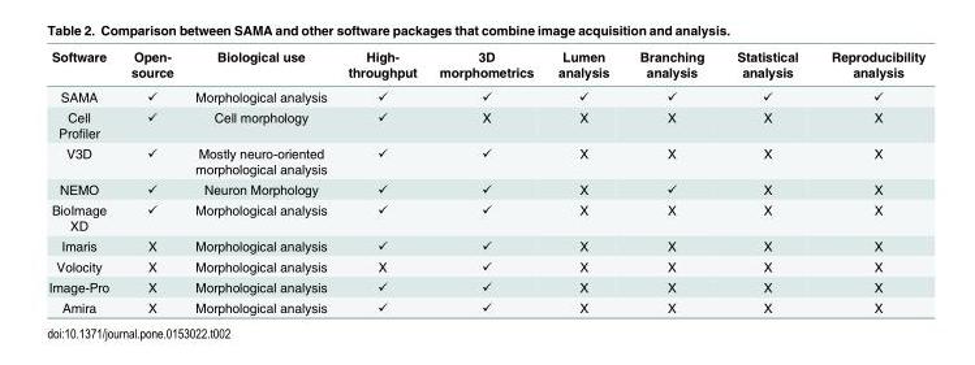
<table><thead><tr><td>Software</td><td>Open- source</td><td>Biological use</td><td>High- throughput</td><td>3D morphometrics</td><td>Lumen analysis</td><td>Branching analysis</td><td>Statistical analysis</td><td>Reproducibility analysis</td></tr></thead><tbody><tr><td>SAMA</td><td>✓</td><td>Morphological analysis</td><td>✓</td><td>✓</td><td>✓</td><td>✓</td><td>✓</td><td>✓</td></tr><tr><td>Cell Profiler</td><td>✓</td><td>Cell morphology</td><td>✓</td><td>X</td><td>X</td><td>X</td><td>X</td><td>X</td></tr><tr><td>V3D</td><td>✓</td><td>Mostly neuro-oriented morphological analysis</td><td>✓</td><td>✓</td><td>X</td><td>X</td><td>X</td><td>X</td></tr><tr><td>NEMO</td><td>✓</td><td>Neuron Morphology</td><td>✓</td><td>✓</td><td>X</td><td>✓</td><td>X</td><td>X</td></tr><tr><td>BioImage XD</td><td>✓</td><td>Morphological analysis</td><td>✓</td><td>✓</td><td>X</td><td>X</td><td>X</td><td>X</td></tr><tr><td>Imaris</td><td>X</td><td>Morphological analysis</td><td>✓</td><td>✓</td><td>X</td><td>X</td><td>X</td><td>X</td></tr><tr><td>Volocity</td><td>X</td><td>Morphological analysis</td><td>X</td><td>✓</td><td>X</td><td>X</td><td>X</td><td>X</td></tr><tr><td>Image-Pro</td><td>X</td><td>Morphological analysis</td><td>✓</td><td>✓</td><td>X</td><td>X</td><td>X</td><td>X</td></tr><tr><td>Amira</td><td>X</td><td>Morphological analysis</td><td>✓</td><td>✓</td><td>X</td><td>X</td><td>X</td><td>X</td></tr></tbody></table>